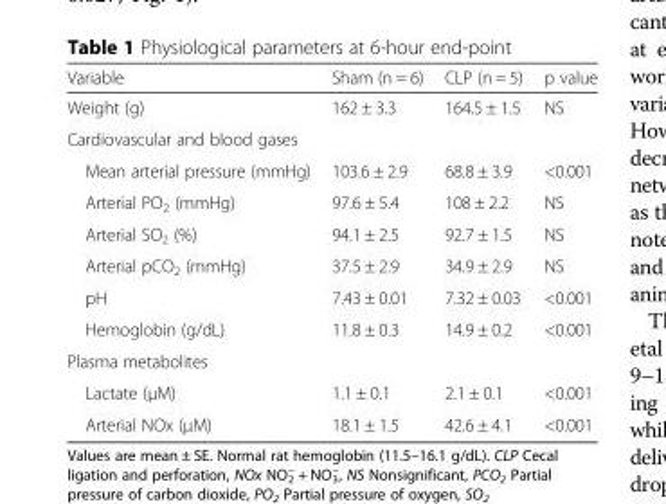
<table><thead><tr><td>Variable</td><td>Sham (n = 6)</td><td>CLP (n = 5)</td><td>p value</td></tr></thead><tbody><tr><td>Weight (g)</td><td>162 ± 3.3</td><td>164.5 ± 1.5</td><td>NS</td></tr><tr><td colspan="4">Cardiovascular and blood gases</td></tr><tr><td>Mean arterial pressure (mmHg)</td><td>103.6 ± 2.9</td><td>68.8 ± 3.9</td><td>&lt;0.001</td></tr><tr><td>Arterial PO<sub>2</sub> (mmHg)</td><td>97.6 ± 5.4</td><td>108 ± 2.2</td><td>NS</td></tr><tr><td>Arterial SO<sub>2</sub> (%)</td><td>94.1 ± 2.5</td><td>92.7 ± 1.5</td><td>NS</td></tr><tr><td>Arterial pCO<sub>2</sub> (mmHg)</td><td>37.5 ± 2.9</td><td>34.9 ± 2.9</td><td>NS</td></tr><tr><td>pH</td><td>7.43 ± 0.01</td><td>7.32 ± 0.03</td><td>&lt;0.001</td></tr><tr><td>Hemoglobin (g/dL)</td><td>11.8 ± 0.3</td><td>14.9 ± 0.2</td><td>&lt;0.001</td></tr><tr><td colspan="4">Plasma metabolites</td></tr><tr><td>Lactate (μM)</td><td>1.1 ± 0.1</td><td>2.1 ± 0.1</td><td>&lt;0.001</td></tr><tr><td>Arterial NOx (μM)</td><td>18.1 ± 1.5</td><td>42.6 ± 4.1</td><td>&lt;0.001</td></tr></tbody></table>